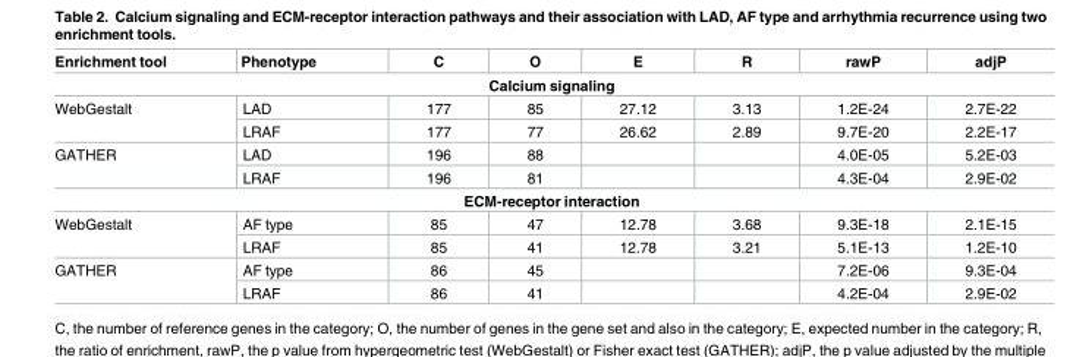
<table><thead><tr><td>Enrichment tool</td><td>Phenotype</td><td>C</td><td>O</td><td>E</td><td>R</td><td>rawP</td><td>adjP</td></tr></thead><tbody><tr><td colspan="8">Calcium signaling</td></tr><tr><td rowspan="2">WebGestalt</td><td>LAD</td><td>177</td><td>85</td><td>27.12</td><td>3.13</td><td>1.2E-24</td><td>2.7E-22</td></tr><tr><td>LRAF</td><td>177</td><td>77</td><td>26.62</td><td>2.89</td><td>9.7E-20</td><td>2.2E-17</td></tr><tr><td rowspan="2">GATHER</td><td>LAD</td><td>196</td><td>88</td><td></td><td></td><td>4.0E-05</td><td>5.2E-03</td></tr><tr><td>LRAF</td><td>196</td><td>81</td><td></td><td></td><td>4.3E-04</td><td>2.9E-02</td></tr><tr><td colspan="8">ECM-receptor interaction</td></tr><tr><td rowspan="2">WebGestalt</td><td>AF type</td><td>85</td><td>47</td><td>12.78</td><td>3.68</td><td>9.3E-18</td><td>2.1E-15</td></tr><tr><td>LRAF</td><td>85</td><td>41</td><td>12.78</td><td>3.21</td><td>5.1E-13</td><td>1.2E-10</td></tr><tr><td rowspan="2">GATHER</td><td>AF type</td><td>86</td><td>45</td><td></td><td></td><td>7.2E-06</td><td>9.3E-04</td></tr><tr><td>LRAF</td><td>86</td><td>41</td><td></td><td></td><td>4.2E-04</td><td>2.9E-02</td></tr></tbody></table>